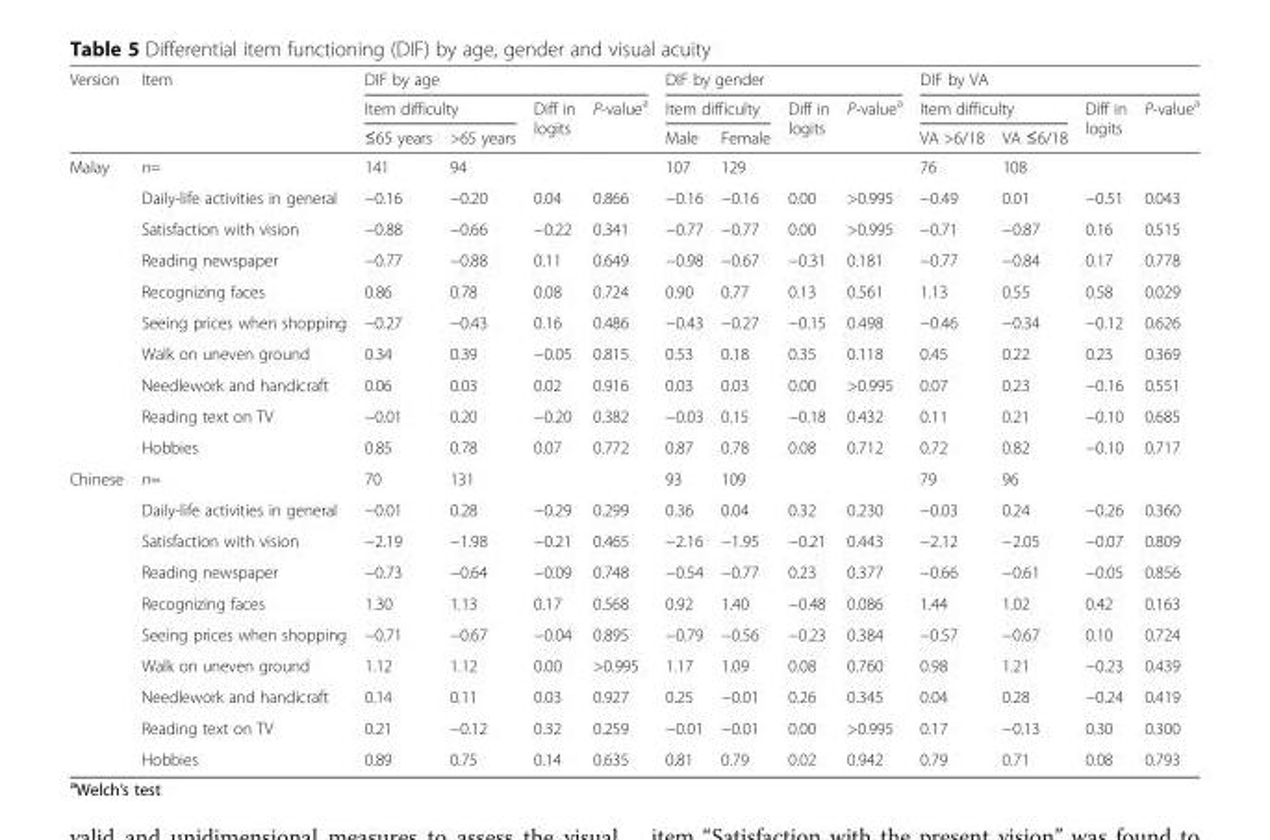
<table><thead><tr><td rowspan="3">Version</td><td rowspan="3">Item</td><td colspan="4">DIF by age</td><td colspan="4">DIF by gender</td><td colspan="4">DIF by VA</td></tr><tr><td colspan="2">Item difficulty</td><td rowspan="2">Diff in logits</td><td rowspan="2">P-value<sup>a</sup></td><td colspan="2">Item difficulty</td><td rowspan="2">Diff in logits</td><td rowspan="2">P-value<sup>a</sup></td><td colspan="2">Item difficulty</td><td rowspan="2">Diff in logits</td><td rowspan="2">P-value<sup>a</sup></td></tr><tr><td>≤65 years</td><td>&gt;65 years</td><td>Male</td><td>Female</td><td>VA &gt;6/18</td><td>VA ≤6/18</td></tr></thead><tbody><tr><td rowspan="10">Malay</td><td>n=</td><td>141</td><td>94</td><td></td><td></td><td>107</td><td>129</td><td></td><td></td><td>76</td><td>108</td><td></td><td></td></tr><tr><td>Daily-life activities in general</td><td>−0.16</td><td>−0.20</td><td>0.04</td><td>0.866</td><td>−0.16</td><td>−0.16</td><td>0.00</td><td>&gt;0.995</td><td>−0.49</td><td>0.01</td><td>−0.51</td><td>0.043</td></tr><tr><td>Satisfaction with vision</td><td>−0.88</td><td>−0.66</td><td>−0.22</td><td>0.341</td><td>−0.77</td><td>−0.77</td><td>0.00</td><td>&gt;0.995</td><td>−0.71</td><td>−0.87</td><td>0.16</td><td>0.515</td></tr><tr><td>Reading newspaper</td><td>−0.77</td><td>−0.88</td><td>0.11</td><td>0.649</td><td>−0.98</td><td>−0.67</td><td>−0.31</td><td>0.181</td><td>−0.77</td><td>−0.84</td><td>0.17</td><td>0.778</td></tr><tr><td>Recognizing faces</td><td>0.86</td><td>0.78</td><td>0.08</td><td>0.724</td><td>0.90</td><td>0.77</td><td>0.13</td><td>0.561</td><td>1.13</td><td>0.55</td><td>0.58</td><td>0.029</td></tr><tr><td>Seeing prices when shopping</td><td>−0.27</td><td>−0.43</td><td>0.16</td><td>0.486</td><td>−0.43</td><td>−0.27</td><td>−0.15</td><td>0.498</td><td>−0.46</td><td>−0.34</td><td>−0.12</td><td>0.626</td></tr><tr><td>Walk on uneven ground</td><td>0.34</td><td>0.39</td><td>−0.05</td><td>0.815</td><td>0.53</td><td>0.18</td><td>0.35</td><td>0.118</td><td>0.45</td><td>0.22</td><td>0.23</td><td>0.369</td></tr><tr><td>Needlework and handicraft</td><td>0.06</td><td>0.03</td><td>0.02</td><td>0.916</td><td>0.03</td><td>0.03</td><td>0.00</td><td>&gt;0.995</td><td>0.07</td><td>0.23</td><td>−0.16</td><td>0.551</td></tr><tr><td>Reading text on TV</td><td>−0.01</td><td>0.20</td><td>−0.20</td><td>0.382</td><td>−0.03</td><td>0.15</td><td>−0.18</td><td>0.432</td><td>0.11</td><td>0.21</td><td>−0.10</td><td>0.685</td></tr><tr><td>Hobbies</td><td>0.85</td><td>0.78</td><td>0.07</td><td>0.772</td><td>0.87</td><td>0.78</td><td>0.08</td><td>0.712</td><td>0.72</td><td>0.82</td><td>−0.10</td><td>0.717</td></tr><tr><td rowspan="10">Chinese</td><td>n=</td><td>70</td><td>131</td><td></td><td></td><td>93</td><td>109</td><td></td><td></td><td>79</td><td>96</td><td></td><td></td></tr><tr><td>Daily-life activities in general</td><td>−0.01</td><td>0.28</td><td>−0.29</td><td>0.299</td><td>0.36</td><td>0.04</td><td>0.32</td><td>0.230</td><td>−0.03</td><td>0.24</td><td>−0.26</td><td>0.360</td></tr><tr><td>Satisfaction with vision</td><td>−2.19</td><td>−1.98</td><td>−0.21</td><td>0.465</td><td>−2.16</td><td>−1.95</td><td>−0.21</td><td>0.443</td><td>−2.12</td><td>−2.05</td><td>−0.07</td><td>0.809</td></tr><tr><td>Reading newspaper</td><td>−0.73</td><td>−0.64</td><td>−0.09</td><td>0.748</td><td>−0.54</td><td>−0.77</td><td>0.23</td><td>0.377</td><td>−0.66</td><td>−0.61</td><td>−0.05</td><td>0.856</td></tr><tr><td>Recognizing faces</td><td>1.30</td><td>1.13</td><td>0.17</td><td>0.568</td><td>0.92</td><td>1.40</td><td>−0.48</td><td>0.086</td><td>1.44</td><td>1.02</td><td>0.42</td><td>0.163</td></tr><tr><td>Seeing prices when shopping</td><td>−0.71</td><td>−0.67</td><td>−0.04</td><td>0.895</td><td>−0.79</td><td>−0.56</td><td>−0.23</td><td>0.384</td><td>−0.57</td><td>−0.67</td><td>0.10</td><td>0.724</td></tr><tr><td>Walk on uneven ground</td><td>1.12</td><td>1.12</td><td>0.00</td><td>&gt;0.995</td><td>1.17</td><td>1.09</td><td>0.08</td><td>0.760</td><td>0.98</td><td>1.21</td><td>−0.23</td><td>0.439</td></tr><tr><td>Needlework and handicraft</td><td>0.14</td><td>0.11</td><td>0.03</td><td>0.927</td><td>0.25</td><td>−0.01</td><td>0.26</td><td>0.345</td><td>0.04</td><td>0.28</td><td>−0.24</td><td>0.419</td></tr><tr><td>Reading text on TV</td><td>0.21</td><td>−0.12</td><td>0.32</td><td>0.259</td><td>−0.01</td><td>−0.01</td><td>0.00</td><td>&gt;0.995</td><td>0.17</td><td>−0.13</td><td>0.30</td><td>0.300</td></tr><tr><td>Hobbies</td><td>0.89</td><td>0.75</td><td>0.14</td><td>0.635</td><td>0.81</td><td>0.79</td><td>0.02</td><td>0.942</td><td>0.79</td><td>0.71</td><td>0.08</td><td>0.793</td></tr></tbody></table>